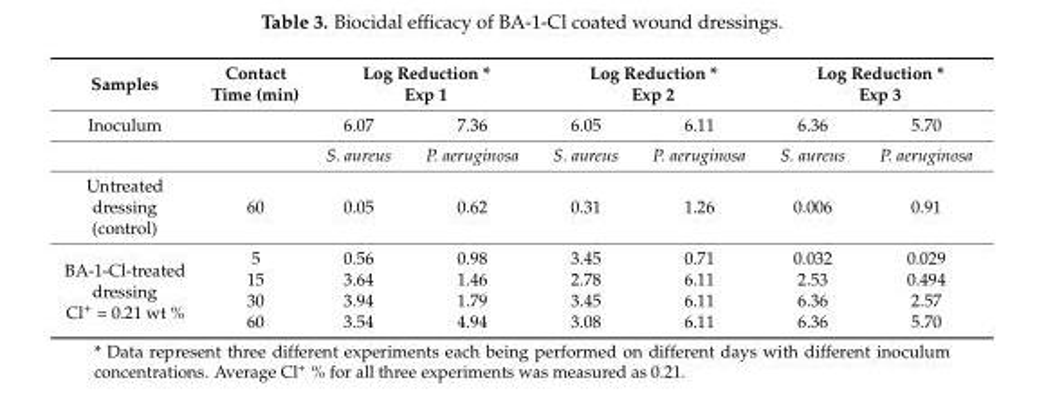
<table><thead><tr><td rowspan="2">Samples Inoculum</td><td rowspan="2">Contact Time (min)</td><td colspan="2">Log Reduction * Exp 1</td><td colspan="2">Log Reduction * Exp 2</td><td colspan="2">Log Reduction * Exp 3</td></tr><tr><td>6.07</td><td>7.36</td><td>6.05</td><td>6.11</td><td>6.36</td><td>5.70</td></tr></thead><tbody><tr><td></td><td></td><td>S. aureus</td><td>P. aeruginosa</td><td>S. aureus</td><td>P. aeruginosa</td><td>S. aureus</td><td>P. aeruginosa</td></tr><tr><td>Untreated dressing (control)</td><td>60</td><td>0.05</td><td>0.62</td><td>0.31</td><td>1.26</td><td>0.006</td><td>0.91</td></tr><tr><td rowspan="4">BA-1-Cl-treated dressing Cl+ = 0.21 wt %</td><td>5</td><td>0.56</td><td>0.98</td><td>3.45</td><td>0.71</td><td>0.032</td><td>0.029</td></tr><tr><td>15</td><td>3.64</td><td>1.46</td><td>2.78</td><td>6.11</td><td>2.53</td><td>0.494</td></tr><tr><td>30</td><td>3.94</td><td>1.79</td><td>3.45</td><td>6.11</td><td>6.36</td><td>2.57</td></tr><tr><td>60</td><td>3.54</td><td>4.94</td><td>3.08</td><td>6.11</td><td>6.36</td><td>5.70</td></tr></tbody></table>